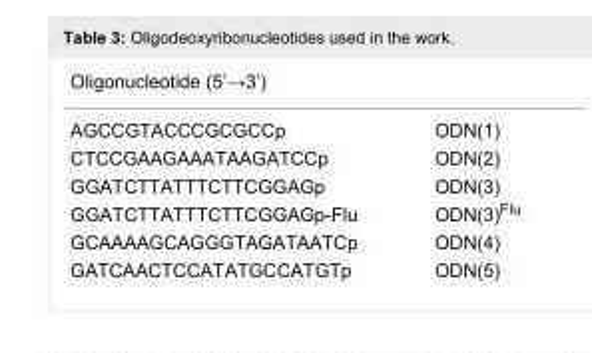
<table><tbody><tr><td colspan="2">Oligonucleotide (5’→3’)</td></tr><tr><td>AGCCGTACCCGCGCCp</td><td>ODN(1)</td></tr><tr><td>CTCCGAAGAAATAAGATCCp</td><td>ODN(2)</td></tr><tr><td>GGATCTTATTTCTTCGGAGp</td><td>ODN(3)</td></tr><tr><td>GGATCTTATTTCTTCGGAGp-Flu</td><td>ODN(3)<sup>Flu</sup></td></tr><tr><td>GCAAAAGCAGGGTAGATAATCp</td><td>ODN(4)</td></tr><tr><td>GATCAACTCCATATGCCATGTp</td><td>ODN(5)</td></tr></tbody></table>